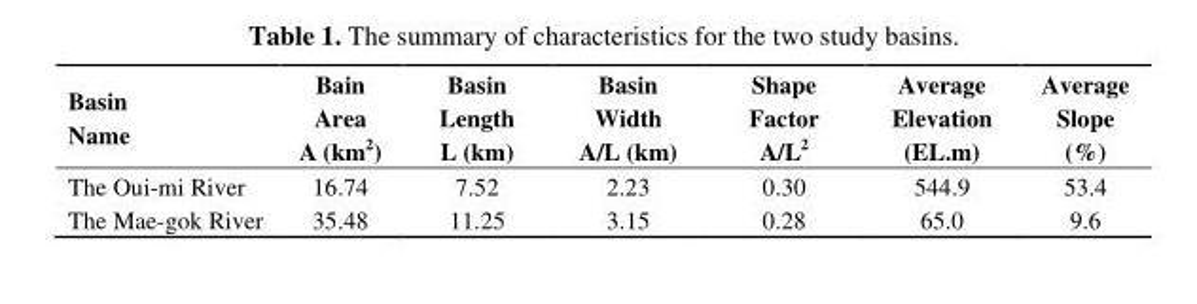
<table><thead><tr><td>Basin Name</td><td>Bain Area A (km<sup>2</sup>)</td><td>Basin Length L (km)</td><td>Basin Width A/L (km)</td><td>Shape Factor A/L<sup>2</sup></td><td>Average Elevation (EL.m)</td><td>Average Slope (%)</td></tr></thead><tbody><tr><td>The Oui-mi River</td><td>16.74</td><td>7.52</td><td>2.23</td><td>0.30</td><td>544.9</td><td>53.4</td></tr><tr><td>The Mae-gok River</td><td>35.48</td><td>11.25</td><td>3.15</td><td>0.28</td><td>65.0</td><td>9.6</td></tr></tbody></table>